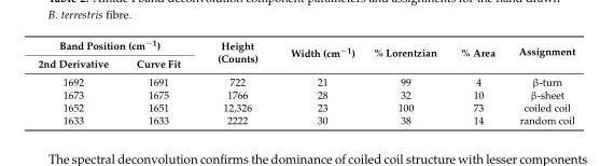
<table><thead><tr><td colspan="2">Band Position (cm<sup>−1</sup>)</td><td rowspan="2">Height (Counts)</td><td rowspan="2">Width (cm<sup>−1</sup>)</td><td rowspan="2">% Lorentzian</td><td rowspan="2">% Area</td><td rowspan="2">Assignment</td></tr><tr><td>2nd Derivative</td><td>Curve Fit</td></tr></thead><tbody><tr><td>1692</td><td>1691</td><td>722</td><td>21</td><td>99</td><td>4</td><td>β-turn</td></tr><tr><td>1673</td><td>1675</td><td>1766</td><td>28</td><td>32</td><td>10</td><td>β-sheet</td></tr><tr><td>1652</td><td>1651</td><td>12,326</td><td>23</td><td>100</td><td>73</td><td>coiled coil</td></tr><tr><td>1633</td><td>1633</td><td>2222</td><td>30</td><td>38</td><td>14</td><td>random coil</td></tr></tbody></table>